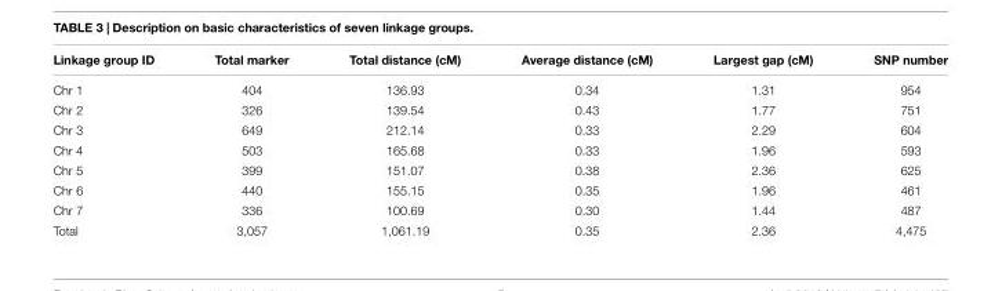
<table><thead><tr><td>Linkage group ID</td><td>Total marker</td><td>Total distance (cM)</td><td>Average distance (cM)</td><td>Largest gap (cM)</td><td>SNP number</td></tr></thead><tbody><tr><td>Chr 1</td><td>404</td><td>136.93</td><td>0.34</td><td>1.31</td><td>954</td></tr><tr><td>Chr 2</td><td>326</td><td>139.54</td><td>0.43</td><td>1.77</td><td>751</td></tr><tr><td>Chr 3</td><td>649</td><td>212.14</td><td>0.33</td><td>2.29</td><td>604</td></tr><tr><td>Chr 4</td><td>503</td><td>165.68</td><td>0.33</td><td>1.96</td><td>593</td></tr><tr><td>Chr 5</td><td>399</td><td>151.07</td><td>0.38</td><td>2.36</td><td>625</td></tr><tr><td>Chr 6</td><td>440</td><td>155.15</td><td>0.35</td><td>1.96</td><td>461</td></tr><tr><td>Chr 7</td><td>336</td><td>100.69</td><td>0.30</td><td>1.44</td><td>487</td></tr><tr><td>Total</td><td>3,057</td><td>1,061.19</td><td>0.35</td><td>2.36</td><td>4,475</td></tr></tbody></table>